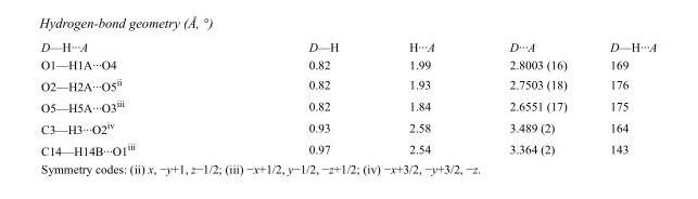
<table><tbody><tr><td>D—H···A</td><td>D—H</td><td>H···A</td><td>D···A</td><td>D—H···A</td></tr><tr><td>O1—H1A···O4</td><td>0.82</td><td>1.99</td><td>2.8003 (16)</td><td>169</td></tr><tr><td>O2—H2A···O5<sup>ii</sup></td><td>0.82</td><td>1.93</td><td>2.7503 (18)</td><td>176</td></tr><tr><td>O5—H5A···O3<sup>iii</sup></td><td>0.82</td><td>1.84</td><td>2.6551 (17)</td><td>175</td></tr><tr><td>C3—H3···O2<sup>iv</sup></td><td>0.93</td><td>2.58</td><td>3.489 (2)</td><td>164</td></tr><tr><td>C14—H14B···O1<sup>iii</sup></td><td>0.97</td><td>2.54</td><td>3.364 (2)</td><td>143</td></tr></tbody></table>